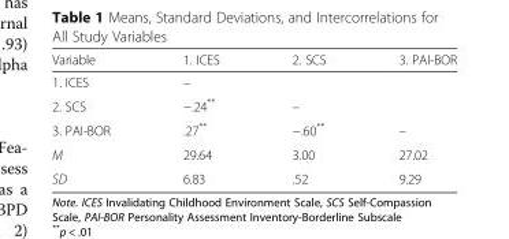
<table><thead><tr><td>Variable</td><td>1. ICES</td><td>2. SCS</td><td>3. PAI-BOR</td></tr></thead><tbody><tr><td>1. ICES</td><td>–</td><td></td><td></td></tr><tr><td>2. SCS</td><td>−.24**</td><td>–</td><td></td></tr><tr><td>3. PAI-BOR</td><td>.27**</td><td>−.60**</td><td>–</td></tr><tr><td>M</td><td>29.64</td><td>3.00</td><td>27.02</td></tr><tr><td>SD</td><td>6.83</td><td>.52</td><td>9.29</td></tr></tbody></table>